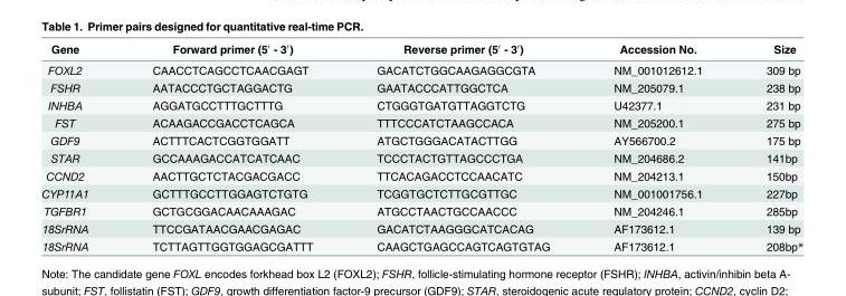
<table><thead><tr><td>Gene</td><td>Forward primer (5′ - 3′)</td><td>Reverse primer (5′ - 3′)</td><td>Accession No.</td><td>Size</td></tr></thead><tbody><tr><td>FOXL2</td><td>CAACCTCAGCCTCAACGAGT</td><td>GACATCTGGCAAGAGGCGTA</td><td>NM_001012612.1</td><td>309 bp</td></tr><tr><td>FSHR</td><td>AATACCCTGCTAGGACTG</td><td>GAATACCCATTGGCTCA</td><td>NM_205079.1</td><td>238 bp</td></tr><tr><td>INHBA</td><td>AGGATGCCTTTGCTTTG</td><td>CTGGGTGATGTTAGGTCTG</td><td>U42377.1</td><td>231 bp</td></tr><tr><td>FST</td><td>ACAAGACCGACCTCAGCA</td><td>TTTCCCATCTAAGCCACA</td><td>NM_205200.1</td><td>275 bp</td></tr><tr><td>GDF9</td><td>ACTTTCACTCGGTGGATT</td><td>ATGCTGGGACATACTTGG</td><td>AY566700.2</td><td>175 bp</td></tr><tr><td>STAR</td><td>GCCAAAGACCATCATCAAC</td><td>TCCCTACTGTTAGCCCTGA</td><td>NM_204686.2</td><td>141bp</td></tr><tr><td>CCND2</td><td>AACTTGCTCTACGACGACC</td><td>TTCACAGACCTCCAACATC</td><td>NM_204213.1</td><td>150bp</td></tr><tr><td>CYP11A1</td><td>GCTTTGCCTTGGAGTCTGTG</td><td>TCGGTGCTCTTGCGTTGC</td><td>NM_001001756.1</td><td>227bp</td></tr><tr><td>TGFBR1</td><td>GCTGCGGACAACAAAGAC</td><td>ATGCCTAACTGCCAACCC</td><td>NM_204246.1</td><td>285bp</td></tr><tr><td>18SrRNA</td><td>TTCCGATAACGAACGAGAC</td><td>GACATCTAAGGGCATCACAG</td><td>AF173612.1</td><td>139 bp</td></tr><tr><td>18SrRNA</td><td>TCTTAGTTGGTGGAGCGATTT</td><td>CAAGCTGAGCCAGTCAGTGTAG</td><td>AF173612.1</td><td>208bp*</td></tr></tbody></table>